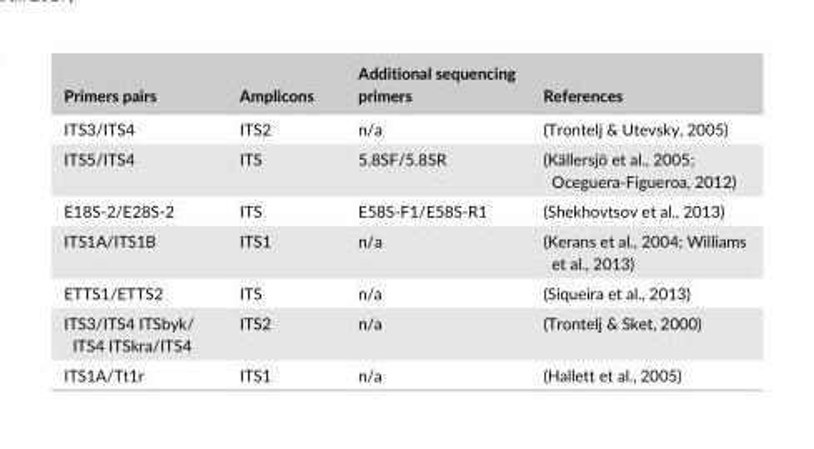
<table><thead><tr><td>Primers pairs</td><td>Amplicons</td><td>Additional sequencing primers</td><td>References</td></tr></thead><tbody><tr><td>ITS3/ITS4</td><td>ITS2</td><td>n/a</td><td>(Trontelj &amp; Utevsky, 2005)</td></tr><tr><td>ITS5/ITS4</td><td>ITS</td><td>5.8SF/5.8SR</td><td>(Källersjö et al., 2005; Oceguera- Figueroa, 2012)</td></tr><tr><td>E18S- 2/E28S- 2</td><td>ITS</td><td>E58S- F1/E58S- R1</td><td>(Shekhovtsov et al., 2013)</td></tr><tr><td>ITS1A/ITS1B</td><td>ITS1</td><td>n/a</td><td>(Kerans et al., 2004; Williams et al., 2013)</td></tr><tr><td>ETTS1/ETTS2</td><td>ITS</td><td>n/a</td><td>(Siqueira et al., 2013)</td></tr><tr><td>ITS3/ITS4 ITSbyk/ ITS4 ITSkra/ITS4</td><td>ITS2</td><td>n/a</td><td>(Trontelj &amp; Sket, 2000)</td></tr><tr><td>ITS1A/Tt1r</td><td>ITS1</td><td>n/a</td><td>(Hallett et al., 2005)</td></tr></tbody></table>